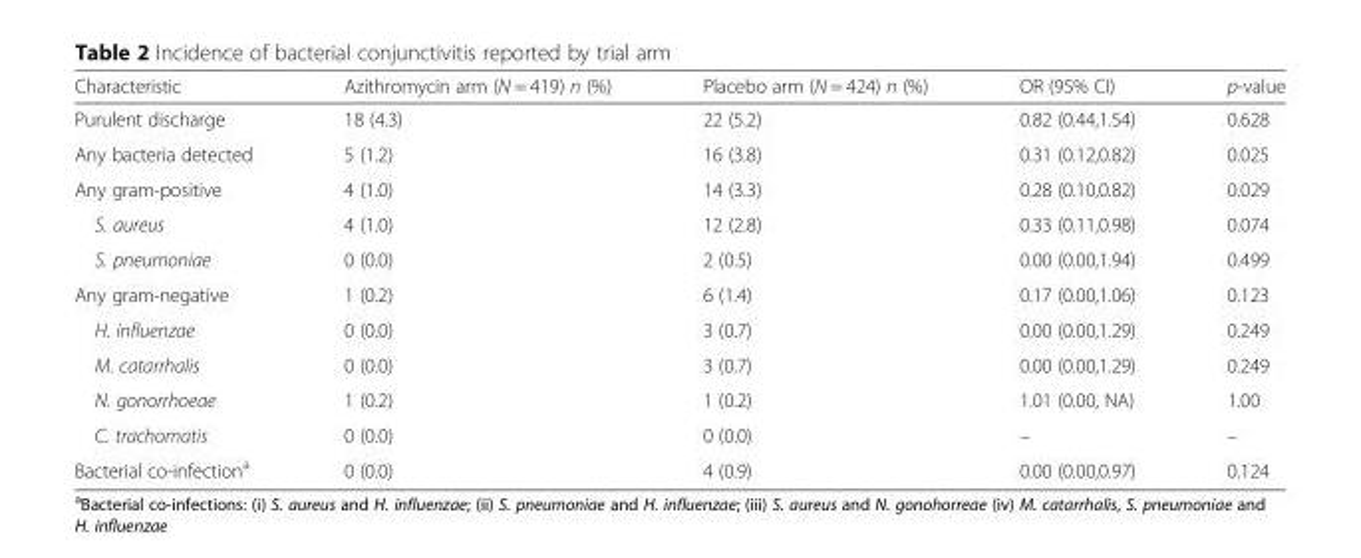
<table><thead><tr><td>Characteristic</td><td>Azithromycin arm (N = 419) n (%)</td><td>Placebo arm (N = 424) n (%)</td><td>OR (95% CI)</td><td>p-value</td></tr></thead><tbody><tr><td>Purulent discharge</td><td>18 (4.3)</td><td>22 (5.2)</td><td>0.82 (0.44,1.54)</td><td>0.628</td></tr><tr><td>Any bacteria detected</td><td>5 (1.2)</td><td>16 (3.8)</td><td>0.31 (0.12,0.82)</td><td>0.025</td></tr><tr><td>Any gram-positive</td><td>4 (1.0)</td><td>14 (3.3)</td><td>0.28 (0.10,0.82)</td><td>0.029</td></tr><tr><td>S. aureus</td><td>4 (1.0)</td><td>12 (2.8)</td><td>0.33 (0.11,0.98)</td><td>0.074</td></tr><tr><td>S. pneumoniae</td><td>0 (0.0)</td><td>2 (0.5)</td><td>0.00 (0.00,1.94)</td><td>0.499</td></tr><tr><td>Any gram-negative</td><td>1 (0.2)</td><td>6 (1.4)</td><td>0.17 (0.00,1.06)</td><td>0.123</td></tr><tr><td>H. influenzae</td><td>0 (0.0)</td><td>3 (0.7)</td><td>0.00 (0.00,1.29)</td><td>0.249</td></tr><tr><td>M. catarrhalis</td><td>0 (0.0)</td><td>3 (0.7)</td><td>0.00 (0.00,1.29)</td><td>0.249</td></tr><tr><td>N. gonorrhoeae</td><td>1 (0.2)</td><td>1 (0.2)</td><td>1.01 (0.00, NA)</td><td>1.00</td></tr><tr><td>C. trachomatis</td><td>0 (0.0)</td><td>0 (0.0)</td><td>–</td><td>–</td></tr><tr><td>Bacterial co-infection<sup>a</sup></td><td>0 (0.0)</td><td>4 (0.9)</td><td>0.00 (0.00,0.97)</td><td>0.124</td></tr></tbody></table>